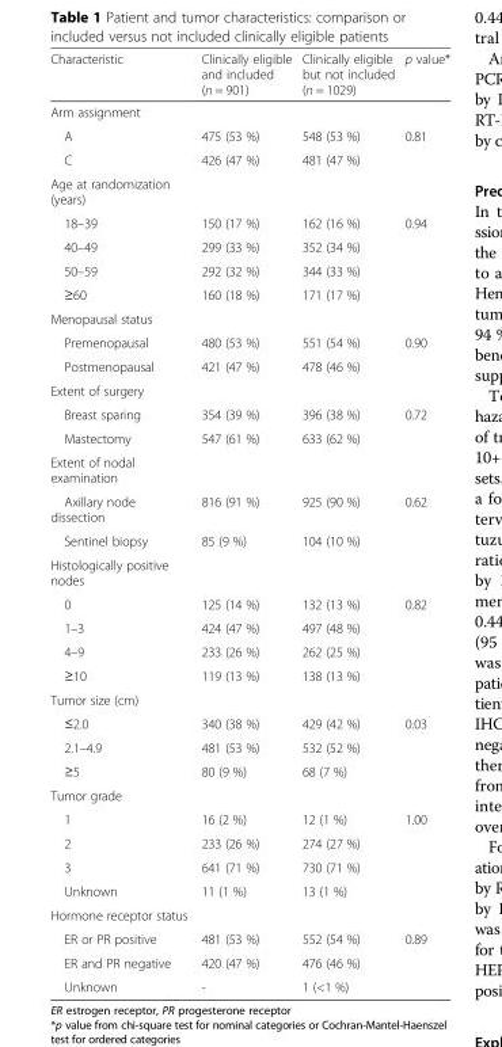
<table><thead><tr><td>Characteristic</td><td>Clinically eligible and included (n = 901)</td><td>Clinically eligible but not included (n = 1029)</td><td>p value*</td></tr></thead><tbody><tr><td colspan="4">Arm assignment</td></tr><tr><td>A</td><td>475 (53 %)</td><td>548 (53 %)</td><td rowspan="2">0.81</td></tr><tr><td>C</td><td>426 (47 %)</td><td>481 (47 %)</td></tr><tr><td colspan="4">Age at randomization (years)</td></tr><tr><td>18–39</td><td>150 (17 %)</td><td>162 (16 %)</td><td rowspan="4">0.94</td></tr><tr><td>40–49</td><td>299 (33 %)</td><td>352 (34 %)</td></tr><tr><td>50–59</td><td>292 (32 %)</td><td>344 (33 %)</td></tr><tr><td>≥60</td><td>160 (18 %)</td><td>171 (17 %)</td></tr><tr><td colspan="4">Menopausal status</td></tr><tr><td>Premenopausal</td><td>480 (53 %)</td><td>551 (54 %)</td><td rowspan="2">0.90</td></tr><tr><td>Postmenopausal</td><td>421 (47 %)</td><td>478 (46 %)</td></tr><tr><td colspan="4">Extent of surgery</td></tr><tr><td>Breast sparing</td><td>354 (39 %)</td><td>396 (38 %)</td><td rowspan="2">0.72</td></tr><tr><td>Mastectomy</td><td>547 (61 %)</td><td>633 (62 %)</td></tr><tr><td colspan="4">Extent of nodal examination</td></tr><tr><td>Axillary node dissection</td><td>816 (91 %)</td><td>925 (90 %)</td><td rowspan="2">0.62</td></tr><tr><td>Sentinel biopsy</td><td>85 (9 %)</td><td>104 (10 %)</td></tr><tr><td colspan="4">Histologically positive nodes</td></tr><tr><td>0</td><td>125 (14 %)</td><td>132 (13 %)</td><td rowspan="4">0.82</td></tr><tr><td>1–3</td><td>424 (47 %)</td><td>497 (48 %)</td></tr><tr><td>4–9</td><td>233 (26 %)</td><td>262 (25 %)</td></tr><tr><td>≥10</td><td>119 (13 %)</td><td>138 (13 %)</td></tr><tr><td colspan="4">Tumor size (cm)</td></tr><tr><td>≤2.0</td><td>340 (38 %)</td><td>429 (42 %)</td><td rowspan="3">0.03</td></tr><tr><td>2.1–4.9</td><td>481 (53 %)</td><td>532 (52 %)</td></tr><tr><td>≥5</td><td>80 (9 %)</td><td>68 (7 %)</td></tr><tr><td colspan="4">Tumor grade</td></tr><tr><td>1</td><td>16 (2 %)</td><td>12 (1 %)</td><td rowspan="4">1.00</td></tr><tr><td>2</td><td>233 (26 %)</td><td>274 (27 %)</td></tr><tr><td>3</td><td>641 (71 %)</td><td>730 (71 %)</td></tr><tr><td>Unknown</td><td>11 (1 %)</td><td>13 (1 %)</td></tr><tr><td colspan="4">Hormone receptor status</td></tr><tr><td>ER or PR positive</td><td>481 (53 %)</td><td>552 (54 %)</td><td rowspan="3">0.89</td></tr><tr><td>ER and PR negative</td><td>420 (47 %)</td><td>476 (46 %)</td></tr><tr><td>Unknown</td><td>-</td><td>1 (&lt;1 %)</td></tr></tbody></table>